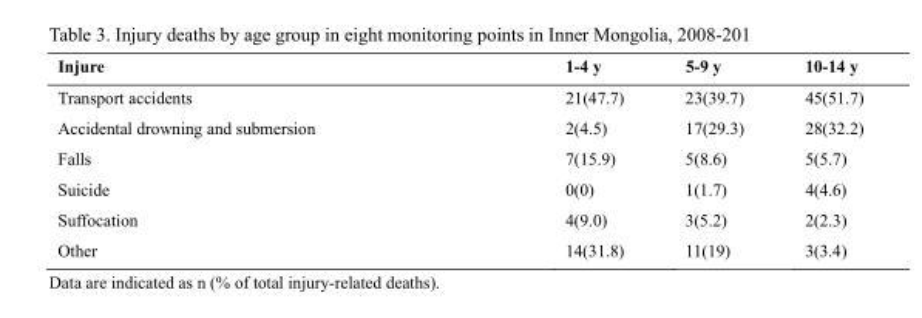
<table><thead><tr><td>Injure</td><td>1-4 y</td><td>5-9 y</td><td>10-14 y</td></tr></thead><tbody><tr><td>Transport accidents</td><td>21(47.7)</td><td>23(39.7)</td><td>45(51.7)</td></tr><tr><td>Accidental drowning and submersion</td><td>2(4.5)</td><td>17(29.3)</td><td>28(32.2)</td></tr><tr><td>Falls</td><td>7(15.9)</td><td>5(8.6)</td><td>5(5.7)</td></tr><tr><td>Suicide</td><td>0(0)</td><td>1(1.7)</td><td>4(4.6)</td></tr><tr><td>Suffocation</td><td>4(9.0)</td><td>3(5.2)</td><td>2(2.3)</td></tr><tr><td>Other</td><td>14(31.8)</td><td>11(19)</td><td>3(3.4)</td></tr></tbody></table>